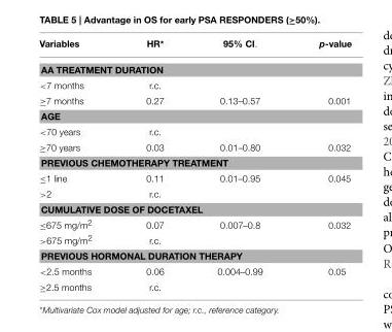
<table><thead><tr><td>Variables</td><td>HR*</td><td>95% CI.</td><td>p-value</td></tr></thead><tbody><tr><td colspan="4">AA TREATMENT DURATION</td></tr><tr><td>&lt;7 months</td><td>r.c.</td><td></td><td></td></tr><tr><td>≥7 months</td><td>0.27</td><td>0.13–0.57</td><td>0.001</td></tr><tr><td colspan="4">AGE</td></tr><tr><td>&lt;70 years</td><td>r.c.</td><td></td><td></td></tr><tr><td>≥70 years</td><td>0.03</td><td>0.01–0.80</td><td>0.032</td></tr><tr><td colspan="4">PREVIOUS CHEMOTHERAPY TREATMENT</td></tr><tr><td>≤1 line</td><td>0.11</td><td>0.01–0.95</td><td>0.045</td></tr><tr><td>&gt;2</td><td>r.c.</td><td></td><td></td></tr><tr><td colspan="4">CUMULATIVE DOSE OF DOCETAXEL</td></tr><tr><td>≤675 mg/m<sup>2</sup></td><td>0.07</td><td>0.007–0.8</td><td>0.032</td></tr><tr><td>&gt;675 mg/m<sup>2</sup></td><td>r.c.</td><td></td><td></td></tr><tr><td colspan="4">PREVIOUS HORMONAL DURATION THERAPY</td></tr><tr><td>&lt;2.5 months</td><td>0.06</td><td>0.004–0.99</td><td>0.05</td></tr><tr><td>≥2.5 months</td><td>r.c.</td><td></td><td></td></tr></tbody></table>